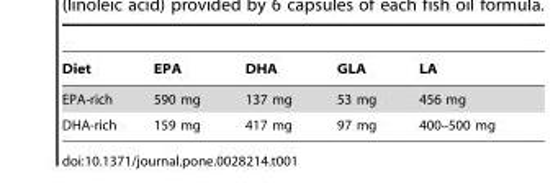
<table><thead><tr><td>Diet</td><td>EPA</td><td>DHA</td><td>GLA</td><td>LA</td></tr></thead><tbody><tr><td>EPA-rich</td><td>590 mg</td><td>137 mg</td><td>53 mg</td><td>456 mg</td></tr><tr><td>DHA-rich</td><td>159 mg</td><td>417 mg</td><td>97 mg</td><td>400–500 mg</td></tr></tbody></table>